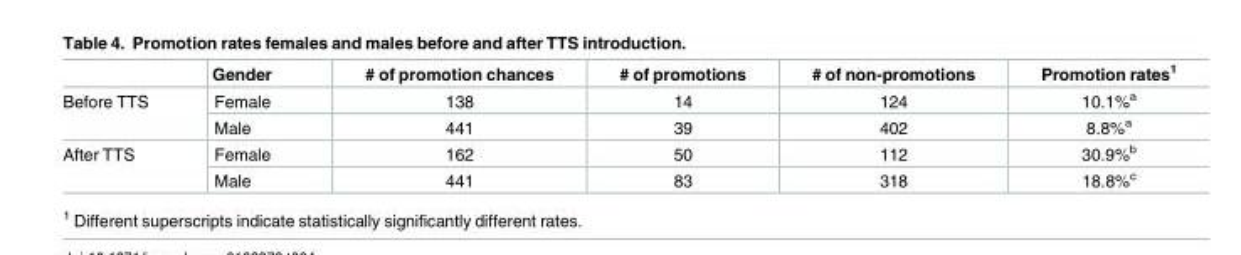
<table><thead><tr><td></td><td>Gender</td><td># of promotion chances</td><td># of promotions</td><td># of non-promotions</td><td>Promotion rates<sup>1</sup></td></tr></thead><tbody><tr><td rowspan="2">Before TTS</td><td>Female</td><td>138</td><td>14</td><td>124</td><td>10.1%<sup>a</sup></td></tr><tr><td>Male</td><td>441</td><td>39</td><td>402</td><td>8.8%<sup>a</sup></td></tr><tr><td rowspan="2">After TTS</td><td>Female</td><td>162</td><td>50</td><td>112</td><td>30.9%<sup>b</sup></td></tr><tr><td>Male</td><td>441</td><td>83</td><td>318</td><td>18.8%<sup>c</sup></td></tr></tbody></table>